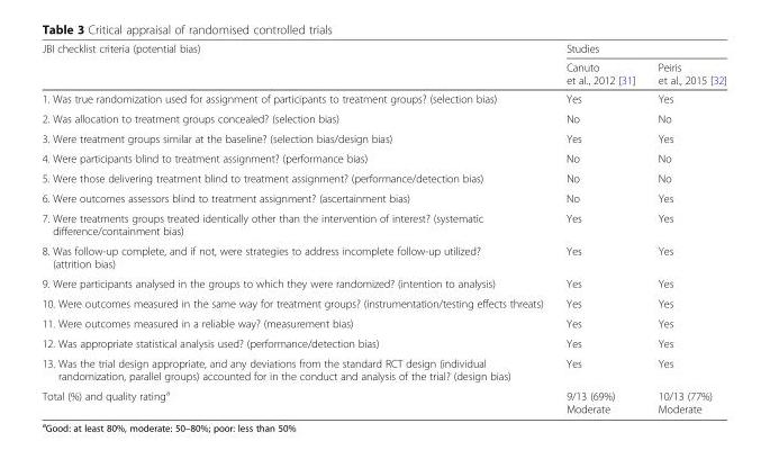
<table><thead><tr><td rowspan="2">JBI checklist criteria (potential bias)</td><td colspan="2">Studies</td></tr><tr><td>Canuto et al., 2012 [31]</td><td>Peiris et al., 2015 [32]</td></tr></thead><tbody><tr><td>1. Was true randomization used for assignment of participants to treatment groups? (selection bias)</td><td>Yes</td><td>Yes</td></tr><tr><td>2. Was allocation to treatment groups concealed? (selection bias)</td><td>No</td><td>No</td></tr><tr><td>3. Were treatment groups similar at the baseline? (selection bias/design bias)</td><td>Yes</td><td>Yes</td></tr><tr><td>4. Were participants blind to treatment assignment? (performance bias)</td><td>No</td><td>No</td></tr><tr><td>5. Were those delivering treatment blind to treatment assignment? (performance/detection bias)</td><td>No</td><td>No</td></tr><tr><td>6. Were outcomes assessors blind to treatment assignment? (ascertainment bias)</td><td>No</td><td>Yes</td></tr><tr><td>7. Were treatments groups treated identically other than the intervention of interest? (systematic difference/containment bias)</td><td>Yes</td><td>Yes</td></tr><tr><td>8. Was follow-up complete, and if not, were strategies to address incomplete follow-up utilized? (attrition bias)</td><td>Yes</td><td>Yes</td></tr><tr><td>9. Were participants analysed in the groups to which they were randomized? (intention to analysis)</td><td>Yes</td><td>Yes</td></tr><tr><td>10. Were outcomes measured in the same way for treatment groups? (instrumentation/testing effects threats)</td><td>Yes</td><td>Yes</td></tr><tr><td>11. Were outcomes measured in a reliable way? (measurement bias)</td><td>Yes</td><td>Yes</td></tr><tr><td>12. Was appropriate statistical analysis used? (performance/detection bias)</td><td>Yes</td><td>Yes</td></tr><tr><td>13. Was the trial design appropriate, and any deviations from the standard RCT design (individual randomization, parallel groups) accounted for in the conduct and analysis of the trial? (design bias)</td><td>Yes</td><td>Yes</td></tr><tr><td>Total (%) and quality rating<sup>a</sup></td><td>9/13 (69%) Moderate</td><td>10/13 (77%) Moderate</td></tr></tbody></table>